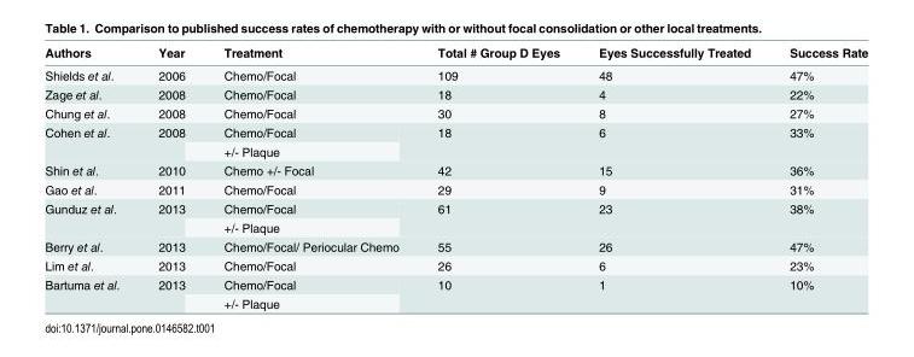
<table><thead><tr><td>Authors</td><td>Year</td><td>Treatment</td><td>Total # Group D Eyes</td><td>Eyes Successfully Treated</td><td>Success Rate</td></tr></thead><tbody><tr><td>Shields et al.</td><td>2006</td><td>Chemo/Focal</td><td>109</td><td>48</td><td>47%</td></tr><tr><td>Zage et al.</td><td>2008</td><td>Chemo/Focal</td><td>18</td><td>4</td><td>22%</td></tr><tr><td>Chung et al.</td><td>2008</td><td>Chemo/Focal</td><td>30</td><td>8</td><td>27%</td></tr><tr><td rowspan="2">Cohen et al.</td><td rowspan="2">2008</td><td>Chemo/Focal</td><td rowspan="2">18</td><td rowspan="2">6</td><td rowspan="2">33%</td></tr><tr><td>+/- Plaque</td></tr><tr><td>Shin et al.</td><td>2010</td><td>Chemo +/- Focal</td><td>42</td><td>15</td><td>36%</td></tr><tr><td>Gao et al.</td><td>2011</td><td>Chemo/Focal</td><td>29</td><td>9</td><td>31%</td></tr><tr><td rowspan="2">Gunduz et al.</td><td rowspan="2">2013</td><td>Chemo/Focal</td><td rowspan="2">61</td><td rowspan="2">23</td><td rowspan="2">38%</td></tr><tr><td>+/- Plaque</td></tr><tr><td>Berry et al.</td><td>2013</td><td>Chemo/Focal/ Periocular Chemo</td><td>55</td><td>26</td><td>47%</td></tr><tr><td>Lim et al.</td><td>2013</td><td>Chemo/Focal</td><td>26</td><td>6</td><td>23%</td></tr><tr><td rowspan="2">Bartuma et al.</td><td rowspan="2">2013</td><td>Chemo/Focal</td><td rowspan="2">10</td><td rowspan="2">1</td><td rowspan="2">10%</td></tr><tr><td>+/- Plaque</td></tr></tbody></table>